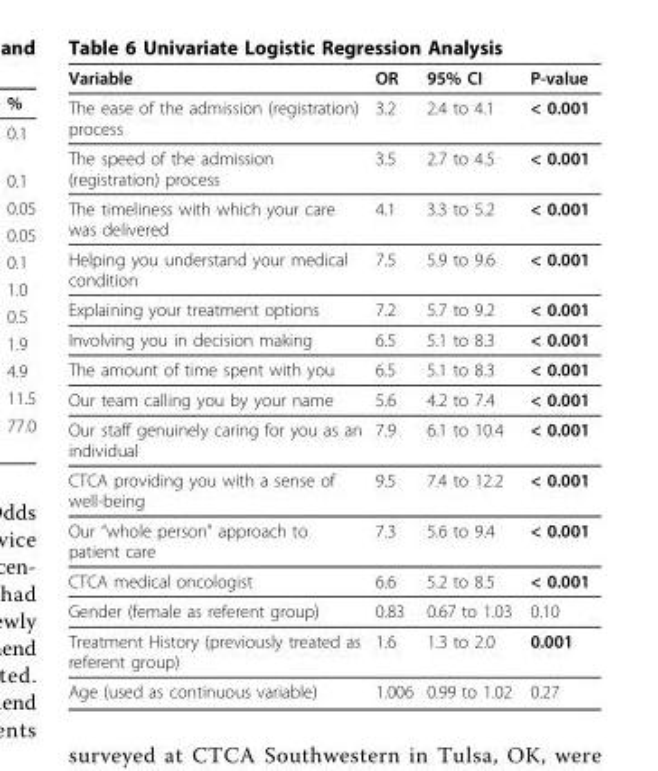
<table><thead><tr><td>Variable</td><td>OR</td><td>95% CI</td><td>P-value</td></tr></thead><tbody><tr><td>The ease of the admission (registration) process</td><td>3.2</td><td>2.4 to 4.1</td><td>&lt; 0.001</td></tr><tr><td>The speed of the admission (registration) process</td><td>3.5</td><td>2.7 to 4.5</td><td>&lt; 0.001</td></tr><tr><td>The timeliness with which your care was delivered</td><td>4.1</td><td>3.3 to 5.2</td><td>&lt; 0.001</td></tr><tr><td>Helping you understand your medical condition</td><td>7.5</td><td>5.9 to 9.6</td><td>&lt; 0.001</td></tr><tr><td>Explaining your treatment options</td><td>7.2</td><td>5.7 to 9.2</td><td>&lt; 0.001</td></tr><tr><td>Involving you in decision making</td><td>6.5</td><td>5.1 to 8.3</td><td>&lt; 0.001</td></tr><tr><td>The amount of time spent with you</td><td>6.5</td><td>5.1 to 8.3</td><td>&lt; 0.001</td></tr><tr><td>Our team calling you by your name</td><td>5.6</td><td>4.2 to 7.4</td><td>&lt; 0.001</td></tr><tr><td>Our staff genuinely caring for you as an individual</td><td>7.9</td><td>6.1 to 10.4</td><td>&lt; 0.001</td></tr><tr><td>CTCA providing you with a sense of well-being</td><td>9.5</td><td>7.4 to 12.2</td><td>&lt; 0.001</td></tr><tr><td>Our “whole person” approach to patient care</td><td>7.3</td><td>5.6 to 9.4</td><td>&lt; 0.001</td></tr><tr><td>CTCA medical oncologist</td><td>6.6</td><td>5.2 to 8.5</td><td>&lt; 0.001</td></tr><tr><td>Gender (female as referent group)</td><td>0.83</td><td>0.67 to 1.03</td><td>0.10</td></tr><tr><td>Treatment History (previously treated as referent group)</td><td>1.6</td><td>1.3 to 2.0</td><td>0.001</td></tr><tr><td>Age (used as continuous variable)</td><td>1.006</td><td>0.99 to 1.02</td><td>0.27</td></tr></tbody></table>